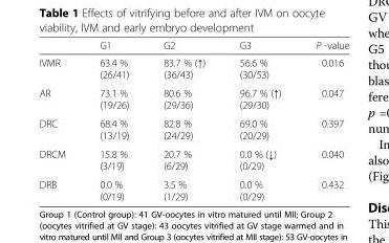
<table><thead><tr><td></td><td>G1</td><td>G2</td><td>G3</td><td>P -value</td></tr></thead><tbody><tr><td>IVMR</td><td>63.4 % (26/41)</td><td>83.7 % (↑) (36/43)</td><td>56.6 % (30/53)</td><td>0.016</td></tr><tr><td>AR</td><td>73.1 % (19/26)</td><td>80.6 % (29/36)</td><td>96.7 % (↑) (29/30)</td><td>0.047</td></tr><tr><td>DRC</td><td>68.4 % (13/19)</td><td>82.8 % (24/29)</td><td>69.0 % (20/29)</td><td>0.397</td></tr><tr><td>DRCM</td><td>15.8 % (3/19)</td><td>20.7 % (6/29)</td><td>0.0 % (↓) (0/29)</td><td>0.040</td></tr><tr><td>DRB</td><td>0.0 % (0/19)</td><td>3.5 % (1/29)</td><td>0.0 % (0/29)</td><td>0.432</td></tr></tbody></table>